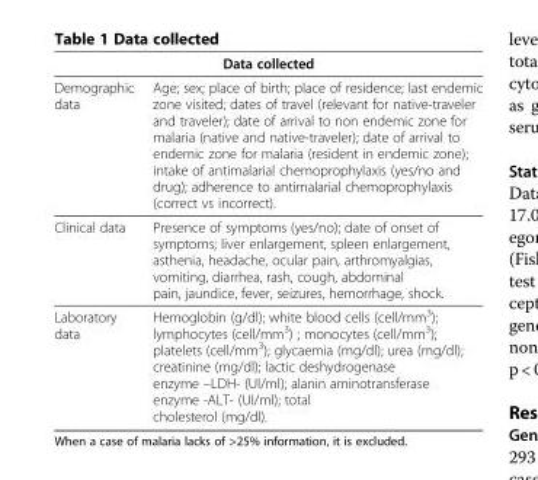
<table><thead><tr><td></td><td>Data collected</td></tr></thead><tbody><tr><td>Demographic data</td><td>Age; sex; place of birth; place of residence; last endemic zone visited; dates of travel (relevant for native-traveler and traveler); date of arrival to non endemic zone for malaria (native and native-traveler); date of arrival to endemic zone for malaria (resident in endemic zone); intake of antimalarial chemoprophylaxis (yes/no and drug); adherence to antimalarial chemoprophylaxis (correct vs incorrect).</td></tr><tr><td>Clinical data</td><td>Presence of symptoms (yes/no); date of onset of symptoms; liver enlargement, spleen enlargement, asthenia, headache, ocular pain, arthromyalgias, vomiting, diarrhea, rash, cough, abdominal pain, jaundice, fever, seizures, hemorrhage, shock.</td></tr><tr><td>Laboratory data</td><td>Hemoglobin (g/dl); white blood cells (cell/mm<sup>3</sup>); lymphocytes (cell/mm<sup>3</sup>) ; monocytes (cell/mm<sup>3</sup>); platelets (cell/mm<sup>3</sup>); glycaemia (mg/dl); urea (mg/dl); creatinine (mg/dl); lactic deshydrogenase enzyme –LDH- (UI/ml); alanin aminotransferase enzyme -ALT- (UI/ml); total cholesterol (mg/dl).</td></tr></tbody></table>